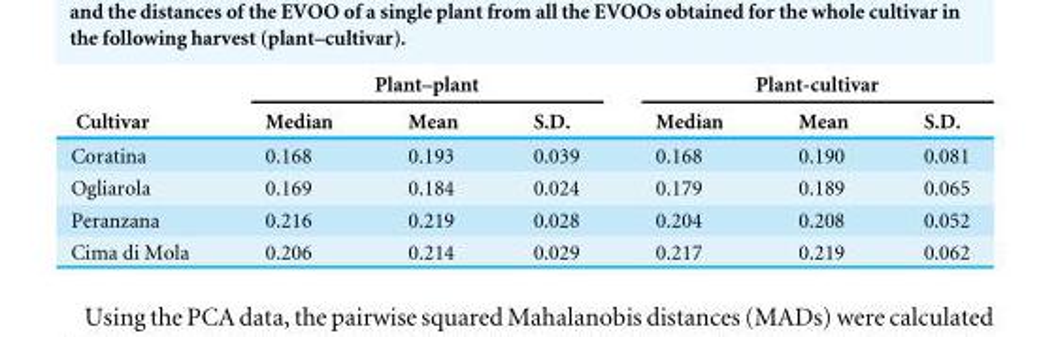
<table><thead><tr><td rowspan="2">Cultivar</td><td colspan="3">Plant–plant</td><td colspan="3">Plant-cultivar</td></tr><tr><td>Median</td><td>Mean</td><td>S.D.</td><td>Median</td><td>Mean</td><td>S.D.</td></tr></thead><tbody><tr><td>Coratina</td><td>0.168</td><td>0.193</td><td>0.039</td><td>0.168</td><td>0.190</td><td>0.081</td></tr><tr><td>Ogliarola</td><td>0.169</td><td>0.184</td><td>0.024</td><td>0.179</td><td>0.189</td><td>0.065</td></tr><tr><td>Peranzana</td><td>0.216</td><td>0.219</td><td>0.028</td><td>0.204</td><td>0.208</td><td>0.052</td></tr><tr><td>Cima di Mola</td><td>0.206</td><td>0.214</td><td>0.029</td><td>0.217</td><td>0.219</td><td>0.062</td></tr></tbody></table>